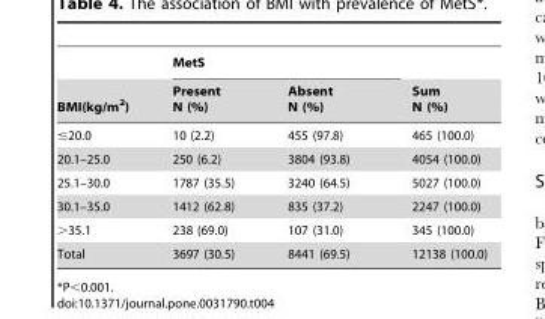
<table><thead><tr><td rowspan="2">BMI(kg/m<sup>2</sup>)</td><td colspan="2">MetS</td><td rowspan="2">Sum N (%)</td></tr><tr><td>Present N (%)</td><td>Absent N (%)</td></tr></thead><tbody><tr><td>≤20.0</td><td>10 (2.2)</td><td>455 (97.8)</td><td>465 (100.0)</td></tr><tr><td>20.1–25.0</td><td>250 (6.2)</td><td>3804 (93.8)</td><td>4054 (100.0)</td></tr><tr><td>25.1–30.0</td><td>1787 (35.5)</td><td>3240 (64.5)</td><td>5027 (100.0)</td></tr><tr><td>30.1–35.0</td><td>1412 (62.8)</td><td>835 (37.2)</td><td>2247 (100.0)</td></tr><tr><td>&gt;35.1</td><td>238 (69.0)</td><td>107 (31.0)</td><td>345 (100.0)</td></tr><tr><td>Total</td><td>3697 (30.5)</td><td>8441 (69.5)</td><td>12138 (100.0)</td></tr></tbody></table>